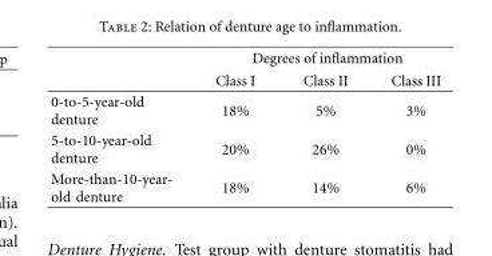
<table><thead><tr><td rowspan="2"></td><td colspan="3">Degrees of inflammation</td></tr><tr><td>Class I</td><td>Class II</td><td>Class III</td></tr></thead><tbody><tr><td>0-to-5-year-old denture</td><td>18%</td><td>5%</td><td>3%</td></tr><tr><td>5-to-10-year-old denture</td><td>20%</td><td>26%</td><td>0%</td></tr><tr><td>More-than-10-year- old denture</td><td>18%</td><td>14%</td><td>6%</td></tr></tbody></table>